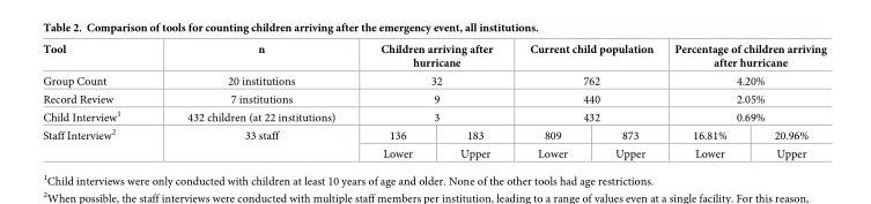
<table><thead><tr><td>Tool</td><td>n</td><td colspan="2">Children arriving after hurricane</td><td colspan="2">Current child population</td><td colspan="2">Percentage of children arriving after hurricane</td></tr></thead><tbody><tr><td>Group Count</td><td>20 institutions</td><td colspan="2">32</td><td colspan="2">762</td><td colspan="2">4.20%</td></tr><tr><td>Record Review</td><td>7 institutions</td><td colspan="2">9</td><td colspan="2">440</td><td colspan="2">2.05%</td></tr><tr><td>Child Interview<sup>1</sup></td><td>432 children (at 22 institutions)</td><td colspan="2">3</td><td colspan="2">432</td><td colspan="2">0.69%</td></tr><tr><td rowspan="2">Staff Interview<sup>2</sup></td><td rowspan="2">33 staff</td><td>136</td><td>183</td><td>809</td><td>873</td><td>16.81%</td><td>20.96%</td></tr><tr><td>Lower</td><td>Upper</td><td>Lower</td><td>Upper</td><td>Lower</td><td>Upper</td></tr></tbody></table>